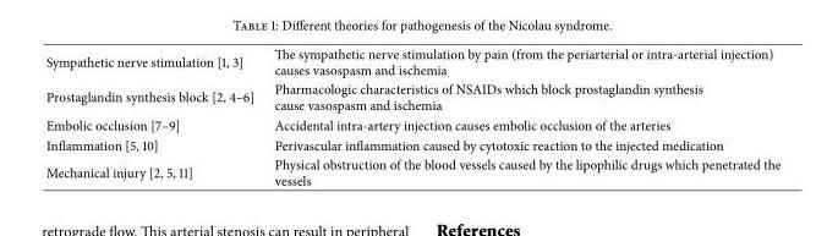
<table><tbody><tr><td>Sympathetic nerve stimulation [1, 3]</td><td>The sympathetic nerve stimulation by pain (from the periarterial or intra-arterial injection) causes vasospasm and ischemia</td></tr><tr><td>Prostaglandin synthesis block [2, 4–6]</td><td>Pharmacologic characteristics of NSAIDs which block prostaglandin synthesis cause vasospasm and ischemia</td></tr><tr><td>Embolic occlusion [7–9]</td><td>Accidental intra-artery injection causes embolic occlusion of the arteries</td></tr><tr><td>Inflammation [5, 10]</td><td>Perivascular inflammation caused by cytotoxic reaction to the injected medication</td></tr><tr><td>Mechanical injury [2, 5, 11]</td><td>Physical obstruction of the blood vessels caused by the lipophilic drugs which penetrated the vessels</td></tr></tbody></table>